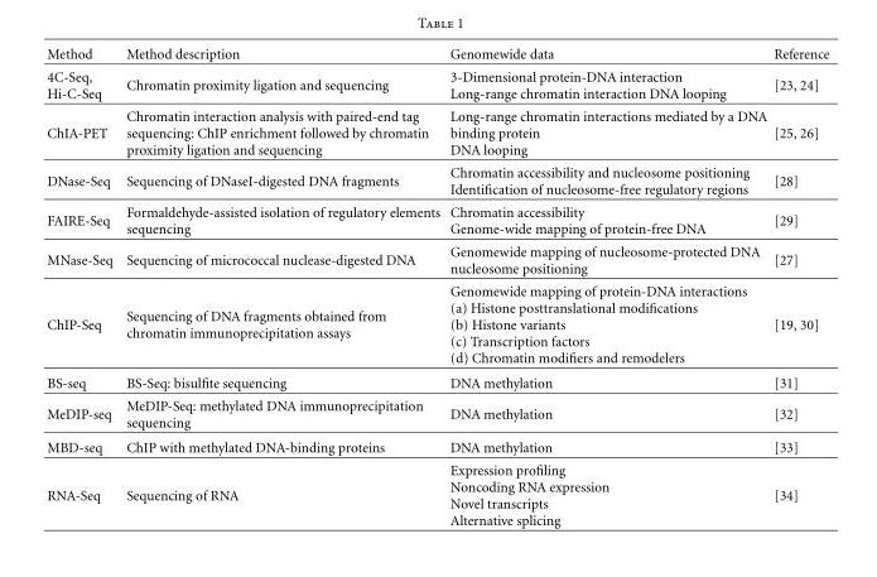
<table><thead><tr><td>Method</td><td>Method description</td><td>Genomewide data</td><td>Reference</td></tr></thead><tbody><tr><td>4C-Seq, Hi-C-Seq</td><td>Chromatin proximity ligation and sequencing</td><td>3-Dimensional protein-DNA interaction Long-range chromatin interaction DNA looping</td><td>[23, 24]</td></tr><tr><td>ChIA-PET</td><td>Chromatin interaction analysis with paired-end tag sequencing: ChIP enrichment followed by chromatin proximity ligation and sequencing</td><td>Long-range chromatin interactions mediated by a DNA binding protein DNA looping</td><td>[25, 26]</td></tr><tr><td>DNase-Seq</td><td>Sequencing of DNaseI-digested DNA fragments</td><td>Chromatin accessibility and nucleosome positioning Identification of nucleosome-free regulatory regions</td><td>[28]</td></tr><tr><td>FAIRE-Seq</td><td>Formaldehyde-assisted isolation of regulatory elements sequencing</td><td>Chromatin accessibility Genome-wide mapping of protein-free DNA</td><td>[29]</td></tr><tr><td>MNase-Seq</td><td>Sequencing of micrococcal nuclease-digested DNA</td><td>Genomewide mapping of nucleosome-protected DNA nucleosome positioning</td><td>[27]</td></tr><tr><td>ChIP-Seq</td><td>Sequencing of DNA fragments obtained from chromatin immunoprecipitation assays</td><td>Genomewide mapping of protein-DNA interactions (a) Histone posttranslational modifications (b) Histone variants (c) Transcription factors (d) Chromatin modifiers and remodelers</td><td>[19, 30]</td></tr><tr><td>BS-seq</td><td>BS-Seq: bisulfite sequencing</td><td>DNA methylation</td><td>[31]</td></tr><tr><td>MeDIP-seq</td><td>MeDIP-Seq: methylated DNA immunoprecipitation sequencing</td><td>DNA methylation</td><td>[32]</td></tr><tr><td>MBD-seq</td><td>ChIP with methylated DNA-binding proteins</td><td>DNA methylation</td><td>[33]</td></tr><tr><td>RNA-Seq</td><td>Sequencing of RNA</td><td>Expression profiling Noncoding RNA expression Novel transcripts Alternative splicing</td><td>[34]</td></tr></tbody></table>